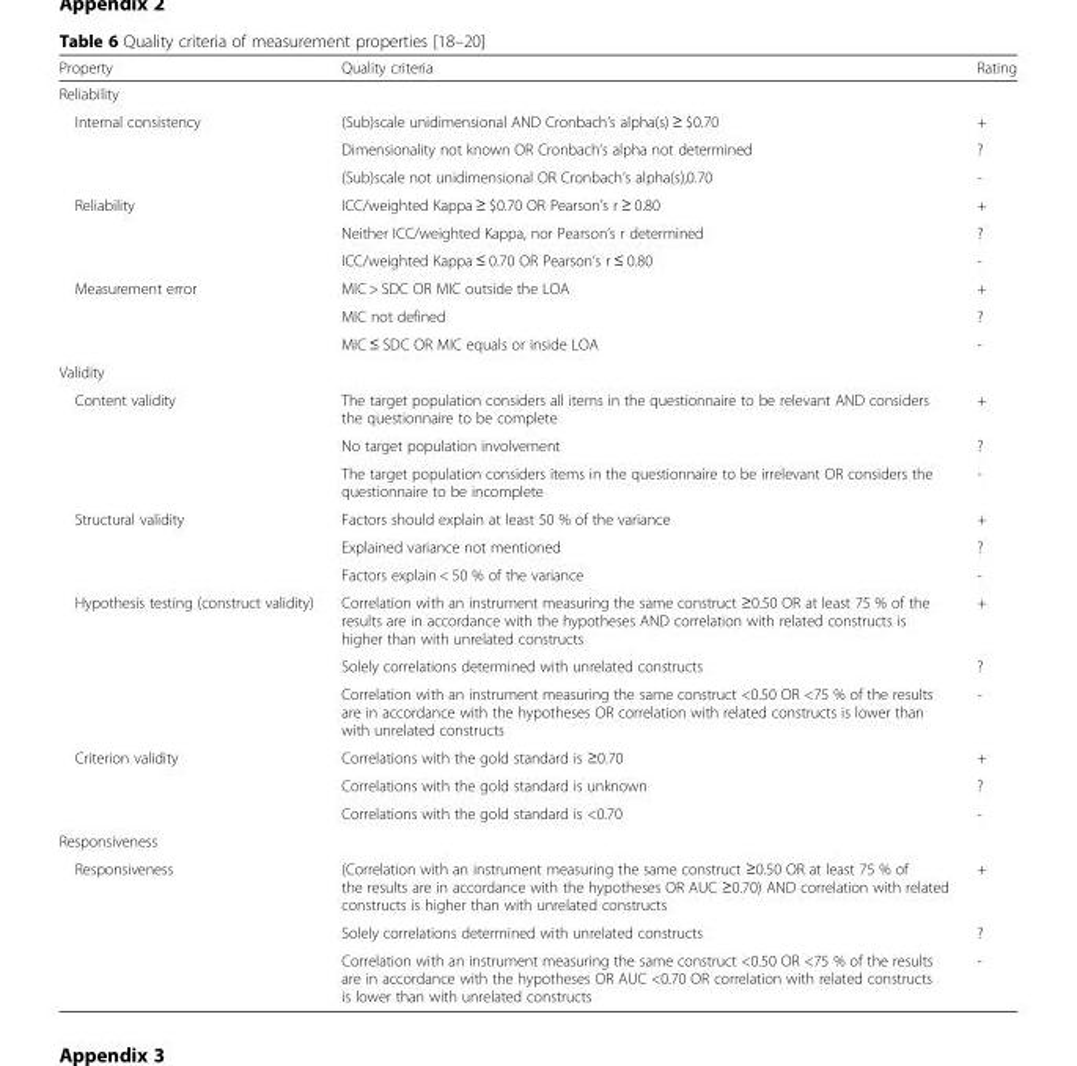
<table><thead><tr><td>Property</td><td>Quality criteria</td><td>Rating</td></tr></thead><tbody><tr><td colspan="3">Reliability</td></tr><tr><td rowspan="3">Internal consistency</td><td>(Sub)scale unidimensional AND Cronbach’s alpha(s) ≥ $0.70</td><td>+</td></tr><tr><td>Dimensionality not known OR Cronbach’s alpha not determined</td><td>?</td></tr><tr><td>(Sub)scale not unidimensional OR Cronbach’s alpha(s),0.70</td><td>-</td></tr><tr><td rowspan="3">Reliability</td><td>ICC/weighted Kappa ≥ $0.70 OR Pearson’s r ≥ 0.80</td><td>+</td></tr><tr><td>Neither ICC/weighted Kappa, nor Pearson’s r determined</td><td>?</td></tr><tr><td>ICC/weighted Kappa ≤ 0.70 OR Pearson’s r ≤ 0.80</td><td>-</td></tr><tr><td rowspan="3">Measurement error</td><td>MIC &gt; SDC OR MIC outside the LOA</td><td>+</td></tr><tr><td>MIC not defined</td><td>?</td></tr><tr><td>MIC ≤ SDC OR MIC equals or inside LOA</td><td>-</td></tr><tr><td colspan="3">Validity</td></tr><tr><td rowspan="3">Content validity</td><td>The target population considers all items in the questionnaire to be relevant AND considers the questionnaire to be complete</td><td>+</td></tr><tr><td>No target population involvement</td><td>?</td></tr><tr><td>The target population considers items in the questionnaire to be irrelevant OR considers the questionnaire to be incomplete</td><td>-</td></tr><tr><td rowspan="3">Structural validity</td><td>Factors should explain at least 50 % of the variance</td><td>+</td></tr><tr><td>Explained variance not mentioned</td><td>?</td></tr><tr><td>Factors explain &lt; 50 % of the variance</td><td>-</td></tr><tr><td rowspan="3">Hypothesis testing (construct validity)</td><td>Correlation with an instrument measuring the same construct ≥0.50 OR at least 75 % of the results are in accordance with the hypotheses AND correlation with related constructs is higher than with unrelated constructs</td><td>+</td></tr><tr><td>Solely correlations determined with unrelated constructs</td><td>?</td></tr><tr><td>Correlation with an instrument measuring the same construct &lt;0.50 OR &lt;75 % of the results are in accordance with the hypotheses OR correlation with related constructs is lower than with unrelated constructs</td><td>-</td></tr><tr><td rowspan="3">Criterion validity</td><td>Correlations with the gold standard is ≥0.70</td><td>+</td></tr><tr><td>Correlations with the gold standard is unknown</td><td>?</td></tr><tr><td>Correlations with the gold standard is &lt;0.70</td><td>-</td></tr><tr><td colspan="3">Responsiveness</td></tr><tr><td rowspan="3">Responsiveness</td><td>(Correlation with an instrument measuring the same construct ≥0.50 OR at least 75 % of the results are in accordance with the hypotheses OR AUC ≥0.70) AND correlation with related constructs is higher than with unrelated constructs</td><td>+</td></tr><tr><td>Solely correlations determined with unrelated constructs</td><td>?</td></tr><tr><td>Correlation with an instrument measuring the same construct &lt;0.50 OR &lt;75 % of the results are in accordance with the hypotheses OR AUC &lt;0.70 OR correlation with related constructs is lower than with unrelated constructs</td><td>-</td></tr></tbody></table>